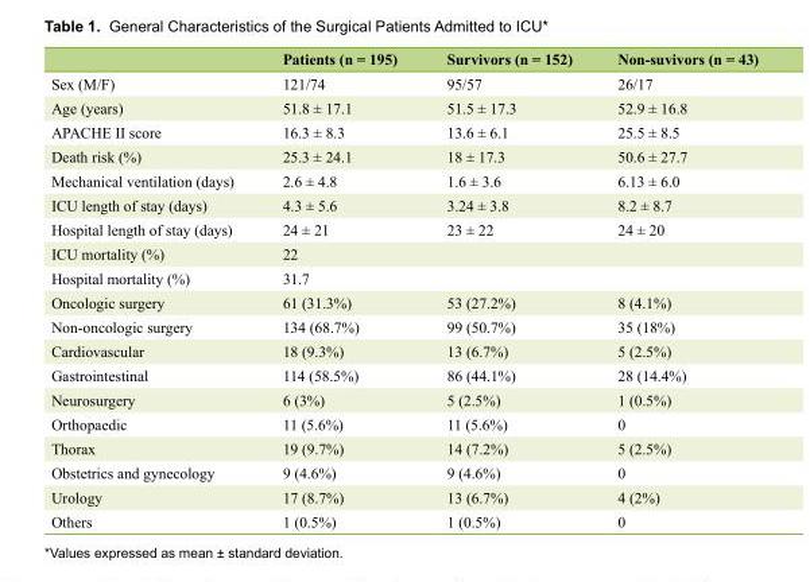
<table><thead><tr><td></td><td>Patients (n = 195)</td><td>Survivors (n = 152)</td><td>Non-suvivors (n = 43)</td></tr></thead><tbody><tr><td>Sex (M/F)</td><td>121/74</td><td>95/57</td><td>26/17</td></tr><tr><td>Age (years)</td><td>51.8 ± 17.1</td><td>51.5 ± 17.3</td><td>52.9 ± 16.8</td></tr><tr><td>APACHE II score</td><td>16.3 ± 8.3</td><td>13.6 ± 6.1</td><td>25.5 ± 8.5</td></tr><tr><td>Death risk (%)</td><td>25.3 ± 24.1</td><td>18 ± 17.3</td><td>50.6 ± 27.7</td></tr><tr><td>Mechanical ventilation (days)</td><td>2.6 ± 4.8</td><td>1.6 ± 3.6</td><td>6.13 ± 6.0</td></tr><tr><td>ICU length of stay (days)</td><td>4.3 ± 5.6</td><td>3.24 ± 3.8</td><td>8.2 ± 8.7</td></tr><tr><td>Hospital length of stay (days)</td><td>24 ± 21</td><td>23 ± 22</td><td>24 ± 20</td></tr><tr><td>ICU mortality (%)</td><td>22</td><td></td><td></td></tr><tr><td>Hospital mortality (%)</td><td>31.7</td><td></td><td></td></tr><tr><td>Oncologic surgery</td><td>61 (31.3%)</td><td>53 (27.2%)</td><td>8 (4.1%)</td></tr><tr><td>Non-oncologic surgery</td><td>134 (68.7%)</td><td>99 (50.7%)</td><td>35 (18%)</td></tr><tr><td>Cardiovascular</td><td>18 (9.3%)</td><td>13 (6.7%)</td><td>5 (2.5%)</td></tr><tr><td>Gastrointestinal</td><td>114 (58.5%)</td><td>86 (44.1%)</td><td>28 (14.4%)</td></tr><tr><td>Neurosurgery</td><td>6 (3%)</td><td>5 (2.5%)</td><td>1 (0.5%)</td></tr><tr><td>Orthopaedic</td><td>11 (5.6%)</td><td>11 (5.6%)</td><td>0</td></tr><tr><td>Thorax</td><td>19 (9.7%)</td><td>14 (7.2%)</td><td>5 (2.5%)</td></tr><tr><td>Obstetrics and gynecology</td><td>9 (4.6%)</td><td>9 (4.6%)</td><td>0</td></tr><tr><td>Urology</td><td>17 (8.7%)</td><td>13 (6.7%)</td><td>4 (2%)</td></tr><tr><td>Others</td><td>1 (0.5%)</td><td>1 (0.5%)</td><td>0</td></tr></tbody></table>